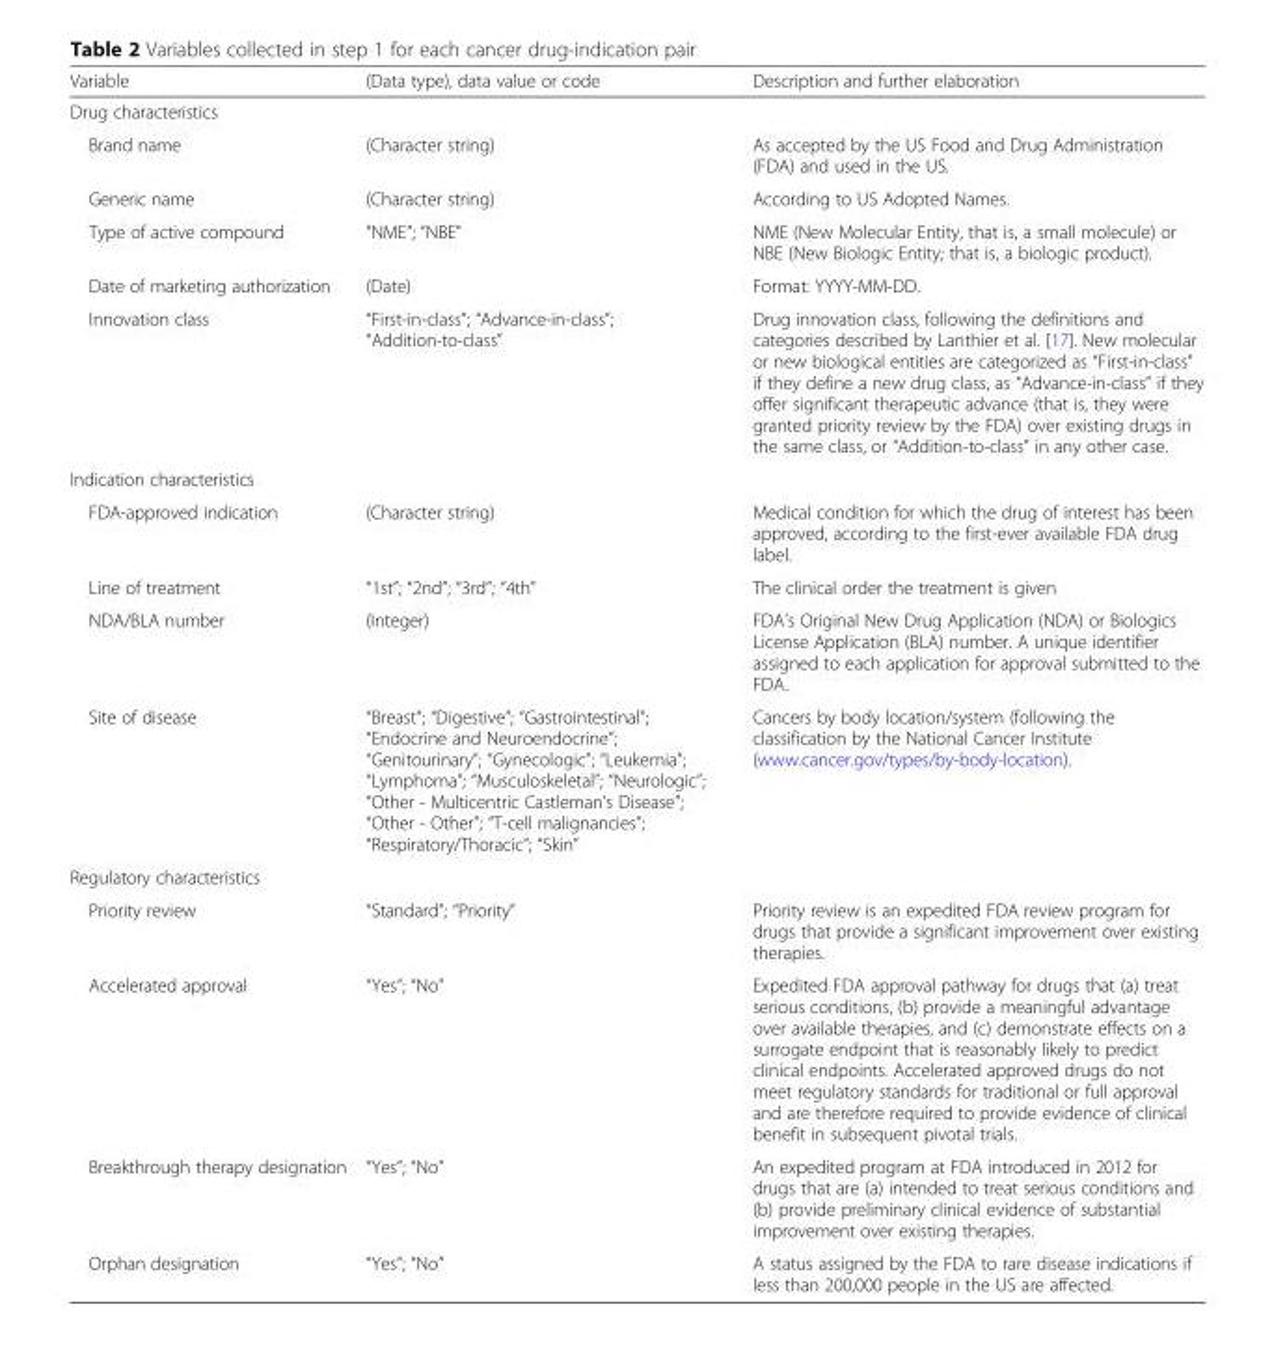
<table><thead><tr><td>Variable</td><td>(Data type), data value or code</td><td>Description and further elaboration</td></tr></thead><tbody><tr><td colspan="3">Drug characteristics</td></tr><tr><td>Brand name</td><td>(Character string)</td><td>As accepted by the US Food and Drug Administration (FDA) and used in the US.</td></tr><tr><td>Generic name</td><td>(Character string)</td><td>According to US Adopted Names.</td></tr><tr><td>Type of active compound</td><td>“NME”; “NBE”</td><td>NME (New Molecular Entity, that is, a small molecule) or NBE (New Biologic Entity; that is, a biologic product).</td></tr><tr><td>Date of marketing authorization</td><td>(Date)</td><td>Format: YYYY-MM-DD.</td></tr><tr><td>Innovation class</td><td>“First-in-class”; “Advance-in-class”; “Addition-to-class”</td><td>Drug innovation class, following the definitions and categories described by Lanthier et al. [17]. New molecular or new biological entities are categorized as “First-in-class” if they define a new drug class, as “Advance-in-class” if they offer significant therapeutic advance (that is, they were granted priority review by the FDA) over existing drugs in the same class, or “Addition-to-class” in any other case.</td></tr><tr><td colspan="3">Indication characteristics</td></tr><tr><td>FDA-approved indication</td><td>(Character string)</td><td>Medical condition for which the drug of interest has been approved, according to the first-ever available FDA drug label.</td></tr><tr><td>Line of treatment</td><td>“1st”; “2nd”; “3rd”; “4th”</td><td>The clinical order the treatment is given</td></tr><tr><td>NDA/BLA number</td><td>(Integer)</td><td>FDA’s Original New Drug Application (NDA) or Biologics License Application (BLA) number. A unique identifier assigned to each application for approval submitted to the FDA.</td></tr><tr><td>Site of disease</td><td>“Breast”; “Digestive”; “Gastrointestinal”; “Endocrine and Neuroendocrine”; “Genitourinary”; “Gynecologic”; “Leukemia”; “Lymphoma”; “Musculoskeletal”; “Neurologic”; “Other - Multicentric Castleman’s Disease”; “Other - Other”; “T-cell malignancies”; “Respiratory/Thoracic”; “Skin”</td><td>Cancers by body location/system (following the classification by the National Cancer Institute (www.cancer.gov/types/by-body-location).</td></tr><tr><td colspan="3">Regulatory characteristics</td></tr><tr><td>Priority review</td><td>“Standard”; “Priority”</td><td>Priority review is an expedited FDA review program for drugs that provide a significant improvement over existing therapies.</td></tr><tr><td>Accelerated approval</td><td>“Yes”; “No”</td><td>Expedited FDA approval pathway for drugs that (a) treat serious conditions, (b) provide a meaningful advantage over available therapies, and (c) demonstrate effects on a surrogate endpoint that is reasonably likely to predict clinical endpoints. Accelerated approved drugs do not meet regulatory standards for traditional or full approval and are therefore required to provide evidence of clinical benefit in subsequent pivotal trials.</td></tr><tr><td>Breakthrough therapy designation</td><td>“Yes”; “No”</td><td>An expedited program at FDA introduced in 2012 for drugs that are (a) intended to treat serious conditions and (b) provide preliminary clinical evidence of substantial improvement over existing therapies.</td></tr><tr><td>Orphan designation</td><td>“Yes”; “No”</td><td>A status assigned by the FDA to rare disease indications if less than 200,000 people in the US are affected.</td></tr></tbody></table>